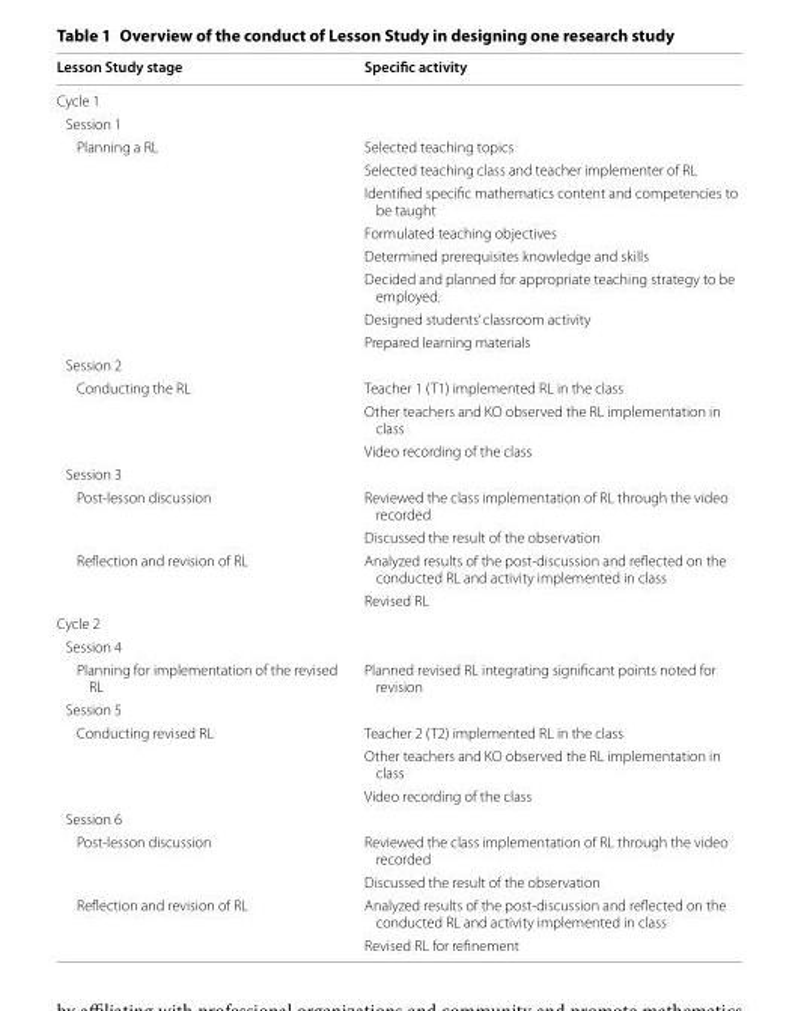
<table><thead><tr><td>Lesson Study stage</td><td>Specific activity</td></tr></thead><tbody><tr><td colspan="2">Cycle 1</td></tr><tr><td colspan="2">Session 1</td></tr><tr><td rowspan="8">Planning a RL</td><td>Selected teaching topics</td></tr><tr><td>Selected teaching class and teacher implementer of RL</td></tr><tr><td>Identified specific mathematics content and competencies to be taught</td></tr><tr><td>Formulated teaching objectives</td></tr><tr><td>Determined prerequisites knowledge and skills</td></tr><tr><td>Decided and planned for appropriate teaching strategy to be employed.</td></tr><tr><td>Designed students’ classroom activity</td></tr><tr><td>Prepared learning materials</td></tr><tr><td colspan="2">Session 2</td></tr><tr><td rowspan="3">Conducting the RL</td><td>Teacher 1 (T1) implemented RL in the class</td></tr><tr><td>Other teachers and KO observed the RL implementation in class</td></tr><tr><td>Video recording of the class</td></tr><tr><td colspan="2">Session 3</td></tr><tr><td rowspan="2">Post-lesson discussion</td><td>Reviewed the class implementation of RL through the video recorded</td></tr><tr><td>Discussed the result of the observation</td></tr><tr><td rowspan="2">Reflection and revision of RL</td><td>Analyzed results of the post-discussion and reflected on the conducted RL and activity implemented in class</td></tr><tr><td>Revised RL</td></tr><tr><td colspan="2">Cycle 2</td></tr><tr><td colspan="2">Session 4</td></tr><tr><td>Planning for implementation of the revised RL</td><td>Planned revised RL integrating significant points noted for revision</td></tr><tr><td colspan="2">Session 5</td></tr><tr><td rowspan="3">Conducting revised RL</td><td>Teacher 2 (T2) implemented RL in the class</td></tr><tr><td>Other teachers and KO observed the RL implementation in class</td></tr><tr><td>Video recording of the class</td></tr><tr><td colspan="2">Session 6</td></tr><tr><td rowspan="2">Post-lesson discussion</td><td>Reviewed the class implementation of RL through the video recorded</td></tr><tr><td>Discussed the result of the observation</td></tr><tr><td rowspan="2">Reflection and revision of RL</td><td>Analyzed results of the post-discussion and reflected on the conducted RL and activity implemented in class</td></tr><tr><td>Revised RL for refinement</td></tr></tbody></table>